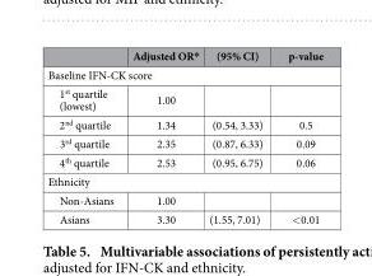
<table><thead><tr><td></td><td>Adjusted OR*</td><td>(95% CI)</td><td>p-value</td></tr></thead><tbody><tr><td colspan="4">Baseline IFN-CK score</td></tr><tr><td>1<sup>st</sup> quartile (lowest)</td><td>1.00</td><td></td><td></td></tr><tr><td>2<sup>nd</sup> quartile</td><td>1.34</td><td>(0.54, 3.33)</td><td>0.5</td></tr><tr><td>3<sup>rd</sup> quartile</td><td>2.35</td><td>(0.87, 6.33)</td><td>0.09</td></tr><tr><td>4<sup>th</sup> quartile</td><td>2.53</td><td>(0.95, 6.75)</td><td>0.06</td></tr><tr><td colspan="4">Ethnicity</td></tr><tr><td>Non-Asians</td><td>1.00</td><td></td><td></td></tr><tr><td>Asians</td><td>3.30</td><td>(1.55, 7.01)</td><td>&lt; 0.01</td></tr></tbody></table>